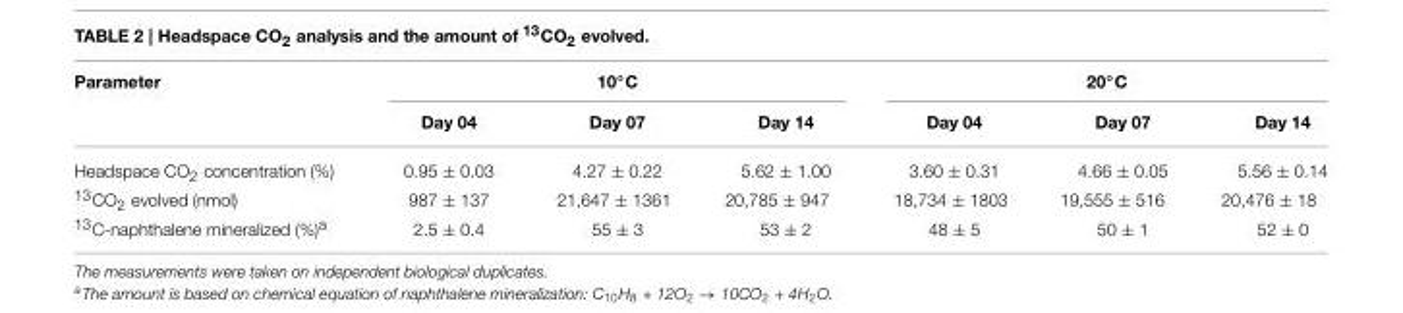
<table><thead><tr><td rowspan="2">Parameter</td><td colspan="3">10◦C</td><td colspan="3">20◦C</td></tr><tr><td>Day 04</td><td>Day 07</td><td>Day 14</td><td>Day 04</td><td>Day 07</td><td>Day 14</td></tr></thead><tbody><tr><td>Headspace CO<sub>2</sub> concentration (%)</td><td>0.95 ± 0.03</td><td>4.27 ± 0.22</td><td>5.62 ± 1.00</td><td>3.60 ± 0.31</td><td>4.66 ± 0.05</td><td>5.56 ± 0.14</td></tr><tr><td><sup>13</sup>CO<sub>2</sub> evolved (nmol)</td><td>987 ± 137</td><td>21,647 ± 1361</td><td>20,785 ± 947</td><td>18,734 ± 1803</td><td>19,555 ± 516</td><td>20,476 ± 18</td></tr><tr><td><sup>13</sup>C-naphthalene mineralized (%)<sup>a</sup></td><td>2.5 ± 0.4</td><td>55 ± 3</td><td>53 ± 2</td><td>48 ± 5</td><td>50 ± 1</td><td>52 ± 0</td></tr></tbody></table>